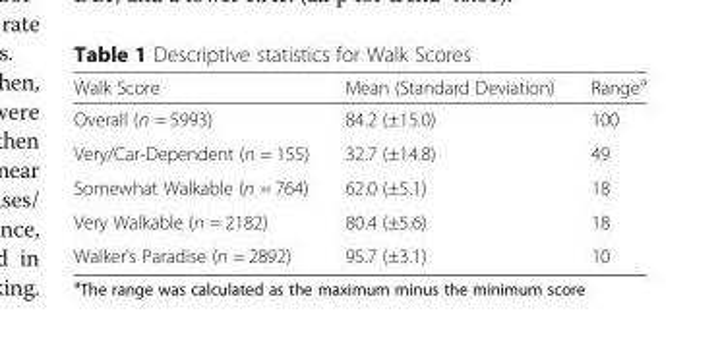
<table><thead><tr><td>Walk Score</td><td>Mean (Standard Deviation)</td><td>Range<sup>a</sup></td></tr></thead><tbody><tr><td>Overall (n = 5993)</td><td>84.2 (±15.0)</td><td>100</td></tr><tr><td>Very/Car-Dependent (n = 155)</td><td>32.7 (±14.8)</td><td>49</td></tr><tr><td>Somewhat Walkable (n = 764)</td><td>62.0 (±5.1)</td><td>18</td></tr><tr><td>Very Walkable (n = 2182)</td><td>80.4 (±5.6)</td><td>18</td></tr><tr><td>Walker’s Paradise (n = 2892)</td><td>95.7 (±3.1)</td><td>10</td></tr></tbody></table>